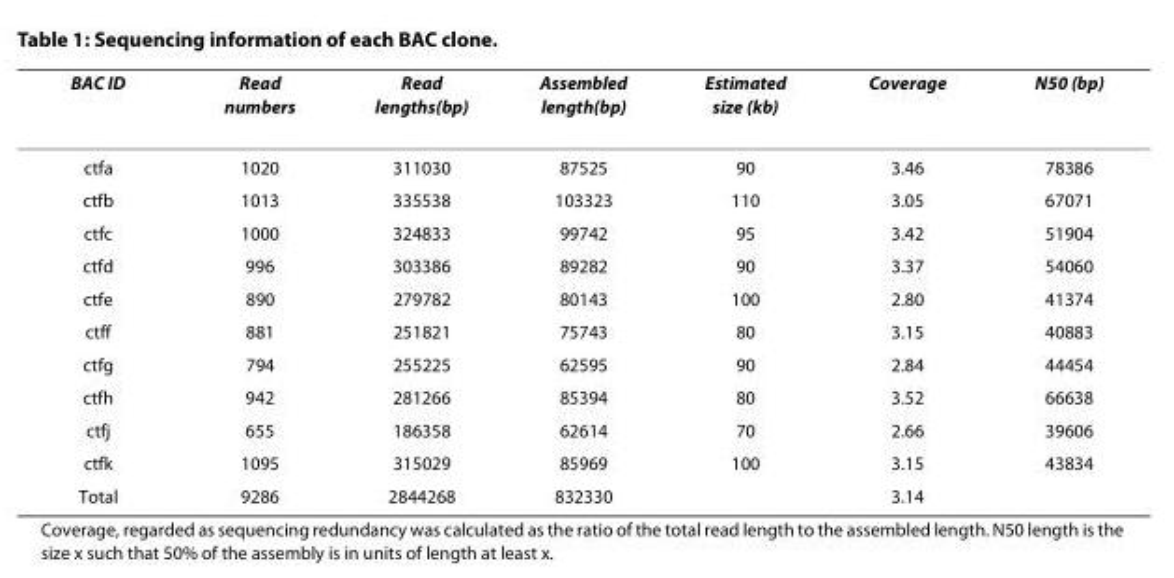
<table><thead><tr><td>BAC ID</td><td>Read numbers</td><td>Read lengths(bp)</td><td>Assembled length(bp)</td><td>Estimated size (kb)</td><td>Coverage</td><td>N50 (bp)</td></tr></thead><tbody><tr><td>ctfa</td><td>1020</td><td>311030</td><td>87525</td><td>90</td><td>3.46</td><td>78386</td></tr><tr><td>ctfb</td><td>1013</td><td>335538</td><td>103323</td><td>110</td><td>3.05</td><td>67071</td></tr><tr><td>ctfc</td><td>1000</td><td>324833</td><td>99742</td><td>95</td><td>3.42</td><td>51904</td></tr><tr><td>ctfd</td><td>996</td><td>303386</td><td>89282</td><td>90</td><td>3.37</td><td>54060</td></tr><tr><td>ctfe</td><td>890</td><td>279782</td><td>80143</td><td>100</td><td>2.80</td><td>41374</td></tr><tr><td>ctff</td><td>881</td><td>251821</td><td>75743</td><td>80</td><td>3.15</td><td>40883</td></tr><tr><td>ctfg</td><td>794</td><td>255225</td><td>62595</td><td>90</td><td>2.84</td><td>44454</td></tr><tr><td>ctfh</td><td>942</td><td>281266</td><td>85394</td><td>80</td><td>3.52</td><td>66638</td></tr><tr><td>ctfj</td><td>655</td><td>186358</td><td>62614</td><td>70</td><td>2.66</td><td>39606</td></tr><tr><td>ctfk</td><td>1095</td><td>315029</td><td>85969</td><td>100</td><td>3.15</td><td>43834</td></tr><tr><td>Total</td><td>9286</td><td>2844268</td><td>832330</td><td></td><td>3.14</td><td></td></tr></tbody></table>